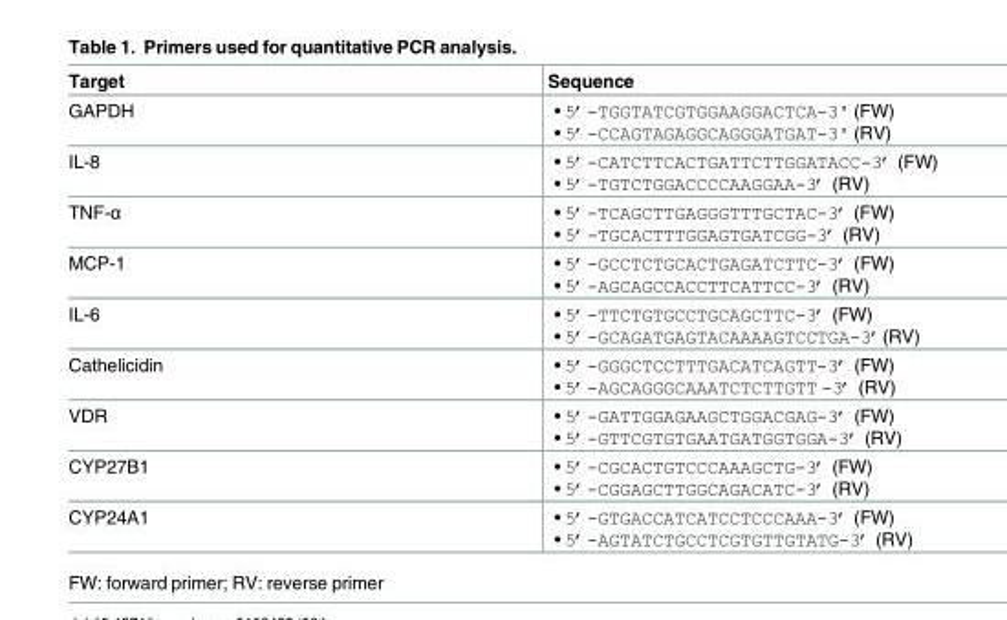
<table><thead><tr><td>Target</td><td>Sequence</td></tr></thead><tbody><tr><td>GAPDH</td><td>• 5’-TGGTATCGTGGAAGGACTCA-3&#x27; (FW) • 5’-CCAGTAGAGGCAGGGATGAT-3&#x27; (RV)</td></tr><tr><td>IL-8</td><td>• 5’-CATCTTCACTGATTCTTGGATACC-3’ (FW) • 5’-TGTCTGGACCCCAAGGAA-3’ (RV)</td></tr><tr><td>TNF-α</td><td>• 5’-TCAGCTTGAGGGTTTGCTAC-3’ (FW) • 5’-TGCACTTTGGAGTGATCGG-3’ (RV)</td></tr><tr><td>MCP-1</td><td>• 5’-GCCTCTGCACTGAGATCTTC-3’ (FW) • 5’-AGCAGCCACCTTCATTCC-3’ (RV)</td></tr><tr><td>IL-6</td><td>• 5’-TTCTGTGCCTGCAGCTTC-3’ (FW) • 5’-GCAGATGAGTACAAAAGTCCTGA-3’(RV)</td></tr><tr><td>Cathelicidin</td><td>• 5’-GGGCTCCTTTGACATCAGTT-3’ (FW) • 5’-AGCAGGGCAAATCTCTTGTT -3’ (RV)</td></tr><tr><td>VDR</td><td>• 5’-GATTGGAGAAGCTGGACGAG-3’ (FW) • 5’-GTTCGTGTGAATGATGGTGGA-3’ (RV)</td></tr><tr><td>CYP27B1</td><td>• 5’-CGCACTGTCCCAAAGCTG-3’ (FW) • 5’-CGGAGCTTGGCAGACATC-3’ (RV)</td></tr><tr><td>CYP24A1</td><td>• 5’-GTGACCATCATCCTCCCAAA-3’ (FW) • 5’-AGTATCTGCCTCGTGTTGTATG-3’ (RV)</td></tr></tbody></table>